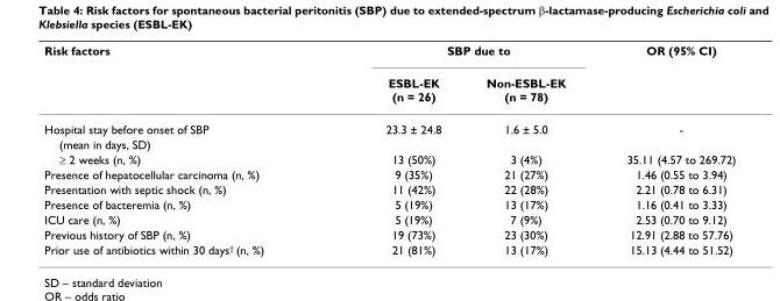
<table><thead><tr><td rowspan="2">Risk factors</td><td colspan="2">SBP due to</td><td rowspan="2">OR (95% CI)</td></tr><tr><td>ESBL-EK (n = 26)</td><td>Non-ESBL-EK (n = 78)</td></tr></thead><tbody><tr><td>Hospital stay before onset of SBP</td><td>23.3 ± 24.8</td><td>1.6 ± 5.0</td><td>-</td></tr><tr><td colspan="4">(mean in days, SD)</td></tr><tr><td>≥ 2 weeks (n, %)</td><td>13 (50%)</td><td>3 (4%)</td><td>35.11 (4.57 to 269.72)</td></tr><tr><td>Presence of hepatocellular carcinoma (n, %)</td><td>9 (35%)</td><td>21 (27%)</td><td>1.46 (0.55 to 3.94)</td></tr><tr><td>Presentation with septic shock (n, %)</td><td>11 (42%)</td><td>22 (28%)</td><td>2.21 (0.78 to 6.31)</td></tr><tr><td>Presence of bacteremia (n, %)</td><td>5 (19%)</td><td>13 (17%)</td><td>1.16 (0.41 to 3.33)</td></tr><tr><td>ICU care (n, %)</td><td>5 (19%)</td><td>7 (9%)</td><td>2.53 (0.70 to 9.12)</td></tr><tr><td>Previous history of SBP (n, %)</td><td>19 (73%)</td><td>23 (30%)</td><td>12.91 (2.88 to 57.76)</td></tr><tr><td>Prior use of antibiotics within 30 days<sup>†</sup> (n, %)</td><td>21 (81%)</td><td>13 (17%)</td><td>15.13 (4.44 to 51.52)</td></tr></tbody></table>